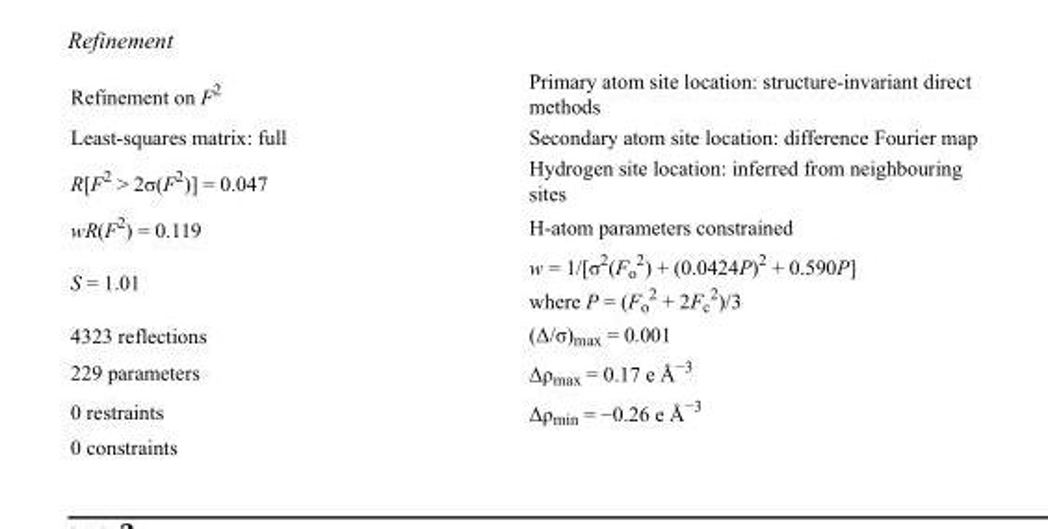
<table><tbody><tr><td>Refinement on F<sup>2</sup></td><td>Primary atom site location: structure-invariant direct methods</td></tr><tr><td>Least-squares matrix: full</td><td>Secondary atom site location: difference Fourier map</td></tr><tr><td>R[F<sup>2</sup> &gt; 2σ(F<sup>2</sup>)] = 0.047</td><td>Hydrogen site location: inferred from neighbouring sites</td></tr><tr><td>wR(F<sup>2</sup>) = 0.119</td><td>H-atom parameters constrained</td></tr><tr><td>S = 1.01</td><td>w = 1/[σ<sup>2</sup>(F<sub>o</sub> <sup>2</sup>) + (0.0424P)<sup>2</sup> + 0.590P] where P = (F<sub>o</sub> <sup>2</sup> + 2F<sub>c</sub> <sup>2</sup>)/3</td></tr><tr><td>4323 reflections</td><td>(Δ/σ)<sub>max</sub> = 0.001</td></tr><tr><td>229 parameters</td><td>Δρ<sub>max</sub> = 0.17 e Å<sup>−3</sup></td></tr><tr><td>0 restraints</td><td>Δρ<sub>min</sub> = −0.26 e Å<sup>−3</sup></td></tr><tr><td>0 constraints</td><td></td></tr></tbody></table>